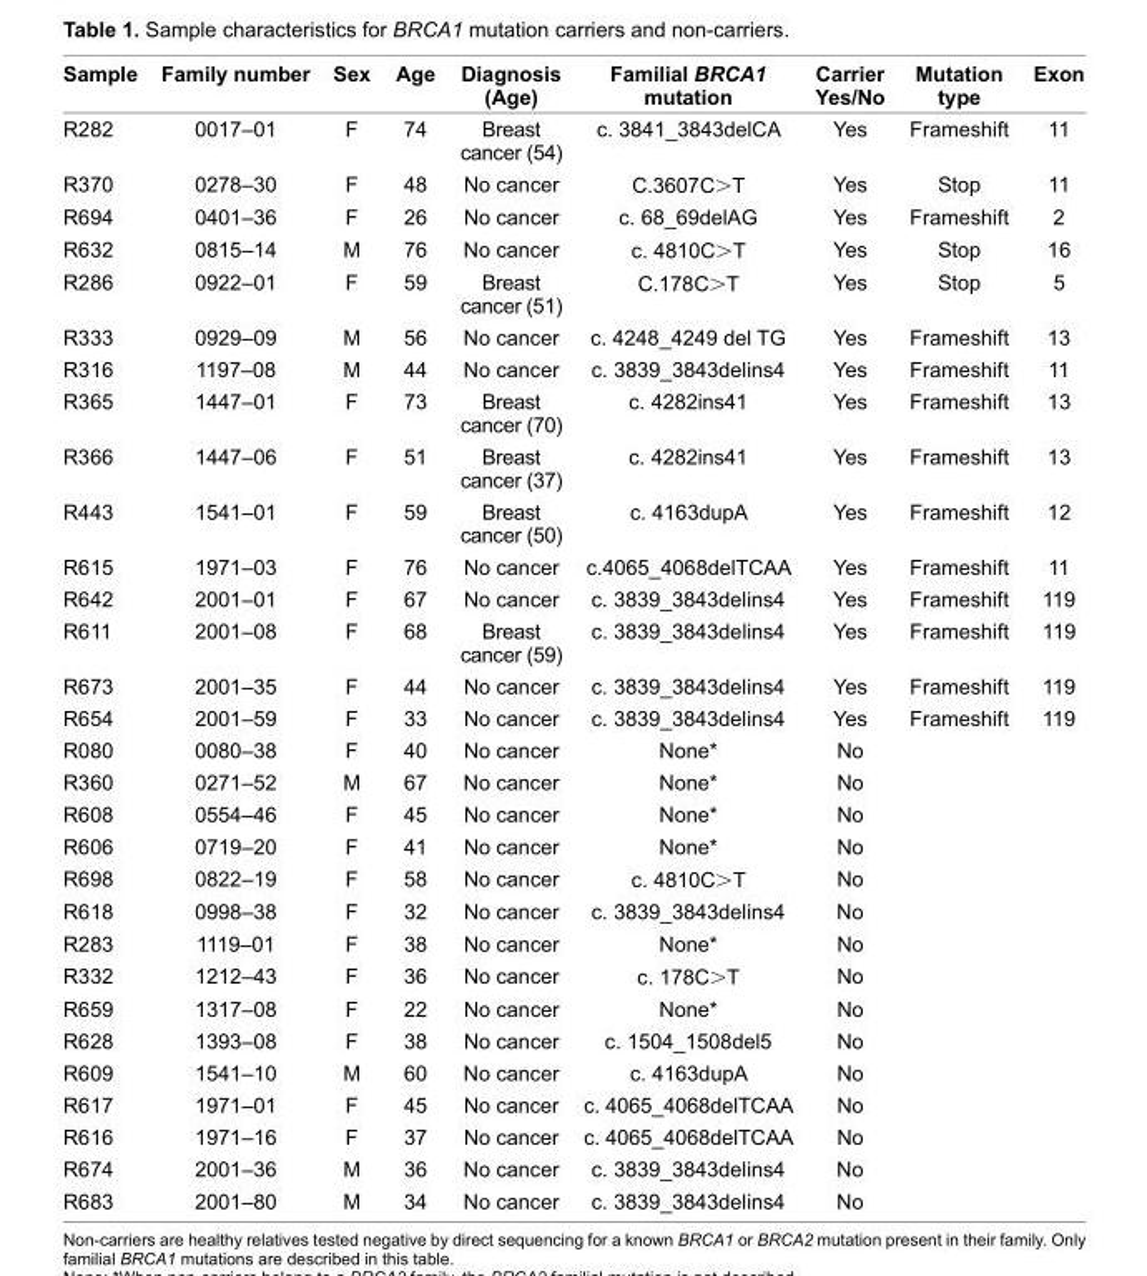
<table><thead><tr><td>Sample</td><td>Family number</td><td>Sex</td><td>Age</td><td>Diagnosis (Age)</td><td>Familial BRCA1 mutation</td><td>Carrier Yes/No</td><td>Mutation type</td><td>Exon</td></tr></thead><tbody><tr><td>R282</td><td>0017–01</td><td>F</td><td>74</td><td>Breast cancer (54)</td><td>c. 3841_3843delCA</td><td>Yes</td><td>Frameshift</td><td>11</td></tr><tr><td>R370</td><td>0278–30</td><td>F</td><td>48</td><td>No cancer</td><td>C.3607C&gt;T</td><td>Yes</td><td>Stop</td><td>11</td></tr><tr><td>R694</td><td>0401–36</td><td>F</td><td>26</td><td>No cancer</td><td>c. 68_69delAG</td><td>Yes</td><td>Frameshift</td><td>2</td></tr><tr><td>R632</td><td>0815–14</td><td>M</td><td>76</td><td>No cancer</td><td>c. 4810C&gt;T</td><td>Yes</td><td>Stop</td><td>16</td></tr><tr><td>R286</td><td>0922–01</td><td>F</td><td>59</td><td>Breast cancer (51)</td><td>C.178C&gt;T</td><td>Yes</td><td>Stop</td><td>5</td></tr><tr><td>R333</td><td>0929–09</td><td>M</td><td>56</td><td>No cancer</td><td>c. 4248_4249 del TG</td><td>Yes</td><td>Frameshift</td><td>13</td></tr><tr><td>R316</td><td>1197–08</td><td>M</td><td>44</td><td>No cancer</td><td>c. 3839_3843delins4</td><td>Yes</td><td>Frameshift</td><td>11</td></tr><tr><td>R365</td><td>1447–01</td><td>F</td><td>73</td><td>Breast cancer (70)</td><td>c. 4282ins41</td><td>Yes</td><td>Frameshift</td><td>13</td></tr><tr><td>R366</td><td>1447–06</td><td>F</td><td>51</td><td>Breast cancer (37)</td><td>c. 4282ins41</td><td>Yes</td><td>Frameshift</td><td>13</td></tr><tr><td>R443</td><td>1541–01</td><td>F</td><td>59</td><td>Breast cancer (50)</td><td>c. 4163dupA</td><td>Yes</td><td>Frameshift</td><td>12</td></tr><tr><td>R615</td><td>1971–03</td><td>F</td><td>76</td><td>No cancer</td><td>c.4065_4068delTCAA</td><td>Yes</td><td>Frameshift</td><td>11</td></tr><tr><td>R642</td><td>2001–01</td><td>F</td><td>67</td><td>No cancer</td><td>c. 3839_3843delins4</td><td>Yes</td><td>Frameshift</td><td>119</td></tr><tr><td>R611</td><td>2001–08</td><td>F</td><td>68</td><td>Breast cancer (59)</td><td>c. 3839_3843delins4</td><td>Yes</td><td>Frameshift</td><td>119</td></tr><tr><td>R673</td><td>2001–35</td><td>F</td><td>44</td><td>No cancer</td><td>c. 3839_3843delins4</td><td>Yes</td><td>Frameshift</td><td>119</td></tr><tr><td>R654</td><td>2001–59</td><td>F</td><td>33</td><td>No cancer</td><td>c. 3839_3843delins4</td><td>Yes</td><td>Frameshift</td><td>119</td></tr><tr><td>R080</td><td>0080–38</td><td>F</td><td>40</td><td>No cancer</td><td>None*</td><td>No</td><td></td><td></td></tr><tr><td>R360</td><td>0271–52</td><td>M</td><td>67</td><td>No cancer</td><td>None*</td><td>No</td><td></td><td></td></tr><tr><td>R608</td><td>0554–46</td><td>F</td><td>45</td><td>No cancer</td><td>None*</td><td>No</td><td></td><td></td></tr><tr><td>R606</td><td>0719–20</td><td>F</td><td>41</td><td>No cancer</td><td>None*</td><td>No</td><td></td><td></td></tr><tr><td>R698</td><td>0822–19</td><td>F</td><td>58</td><td>No cancer</td><td>c. 4810C&gt;T</td><td>No</td><td></td><td></td></tr><tr><td>R618</td><td>0998–38</td><td>F</td><td>32</td><td>No cancer</td><td>c. 3839_3843delins4</td><td>No</td><td></td><td></td></tr><tr><td>R283</td><td>1119–01</td><td>F</td><td>38</td><td>No cancer</td><td>None*</td><td>No</td><td></td><td></td></tr><tr><td>R332</td><td>1212–43</td><td>F</td><td>36</td><td>No cancer</td><td>c. 178C&gt;T</td><td>No</td><td></td><td></td></tr><tr><td>R659</td><td>1317–08</td><td>F</td><td>22</td><td>No cancer</td><td>None*</td><td>No</td><td></td><td></td></tr><tr><td>R628</td><td>1393–08</td><td>F</td><td>38</td><td>No cancer</td><td>c. 1504_1508del5</td><td>No</td><td></td><td></td></tr><tr><td>R609</td><td>1541–10</td><td>M</td><td>60</td><td>No cancer</td><td>c. 4163dupA</td><td>No</td><td></td><td></td></tr><tr><td>R617</td><td>1971–01</td><td>F</td><td>45</td><td>No cancer</td><td>c. 4065_4068delTCAA</td><td>No</td><td></td><td></td></tr><tr><td>R616</td><td>1971–16</td><td>F</td><td>37</td><td>No cancer</td><td>c. 4065_4068delTCAA</td><td>No</td><td></td><td></td></tr><tr><td>R674</td><td>2001–36</td><td>M</td><td>36</td><td>No cancer</td><td>c. 3839_3843delins4</td><td>No</td><td></td><td></td></tr><tr><td>R683</td><td>2001–80</td><td>M</td><td>34</td><td>No cancer</td><td>c. 3839_3843delins4</td><td>No</td><td></td><td></td></tr></tbody></table>